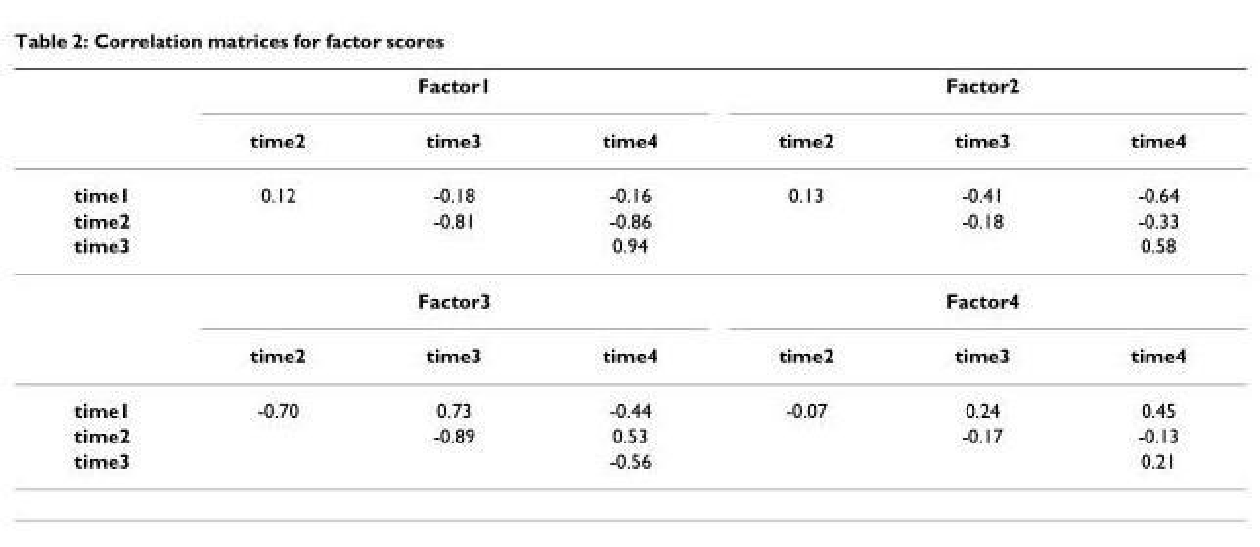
<table><thead><tr><td rowspan="2"></td><td colspan="3">Factor1</td><td colspan="3">Factor2</td></tr><tr><td>time2</td><td>time3</td><td>time4</td><td>time2</td><td>time3</td><td>time4</td></tr></thead><tbody><tr><td>time1</td><td>0.12</td><td>-0.18</td><td>-0.16</td><td>0.13</td><td>-0.41</td><td>-0.64</td></tr><tr><td>time2</td><td></td><td>-0.81</td><td>-0.86</td><td></td><td>-0.18</td><td>-0.33</td></tr><tr><td rowspan="3">time3</td><td></td><td></td><td>0.94</td><td></td><td></td><td>0.58</td></tr><tr><td colspan="3">Factor3</td><td colspan="3">Factor4</td></tr><tr><td>time2</td><td>time3</td><td>time4</td><td>time2</td><td>time3</td><td>time4</td></tr><tr><td>time1</td><td>-0.70</td><td>0.73</td><td>-0.44</td><td>-0.07</td><td>0.24</td><td>0.45</td></tr><tr><td>time2</td><td></td><td>-0.89</td><td>0.53</td><td></td><td>-0.17</td><td>-0.13</td></tr><tr><td>time3</td><td></td><td></td><td>-0.56</td><td></td><td></td><td>0.21</td></tr></tbody></table>